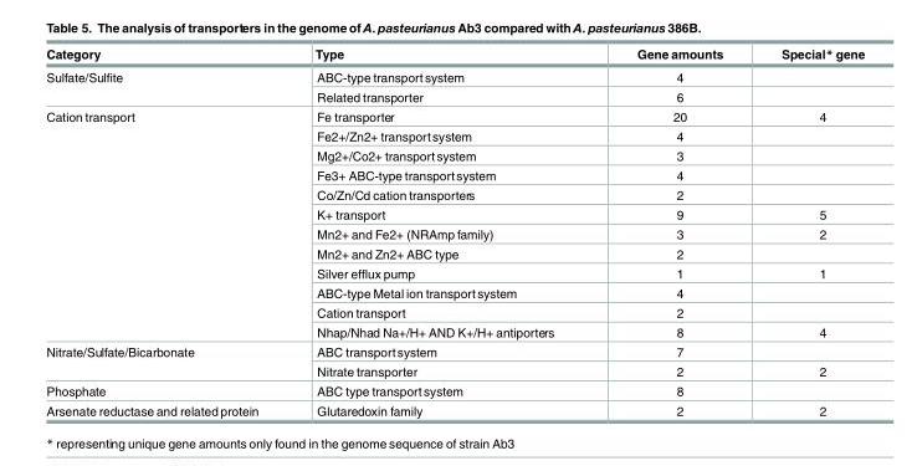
<table><thead><tr><td>Category</td><td>Type</td><td>Gene amounts</td><td>Special* gene</td></tr></thead><tbody><tr><td rowspan="2">Sulfate/Sulfite</td><td>ABC-type transportsystem</td><td>4</td><td></td></tr><tr><td>Related transporter</td><td>6</td><td></td></tr><tr><td rowspan="12">Cation transport</td><td>Fe transporter</td><td>20</td><td>4</td></tr><tr><td>Fe2+/Zn2+ transportsystem</td><td>4</td><td></td></tr><tr><td>Mg2+/Co2+ transportsystem</td><td>3</td><td></td></tr><tr><td>Fe3+ ABC-type transportsystem</td><td>4</td><td></td></tr><tr><td>Co/Zn/Cd cation transporters</td><td>2</td><td></td></tr><tr><td>K+ transport</td><td>9</td><td>5</td></tr><tr><td>Mn2+ and Fe2+ (NRAmp family)</td><td>3</td><td>2</td></tr><tr><td>Mn2+ and Zn2+ ABC type</td><td>2</td><td></td></tr><tr><td>Silver efflux pump</td><td>1</td><td>1</td></tr><tr><td>ABC-type Metal ion transportsystem</td><td>4</td><td></td></tr><tr><td>Cation transport</td><td>2</td><td></td></tr><tr><td>Nhap/Nhad Na+/H+ AND K+/H+ antiporters</td><td>8</td><td>4</td></tr><tr><td rowspan="2">Nitrate/Sulfate/Bicarbonate</td><td>ABC transportsystem</td><td>7</td><td></td></tr><tr><td>Nitrate transporter</td><td>2</td><td>2</td></tr><tr><td>Phosphate</td><td>ABC type transportsystem</td><td>8</td><td></td></tr><tr><td>Arsenate reductase and related protein</td><td>Glutaredoxin family</td><td>2</td><td>2</td></tr></tbody></table>